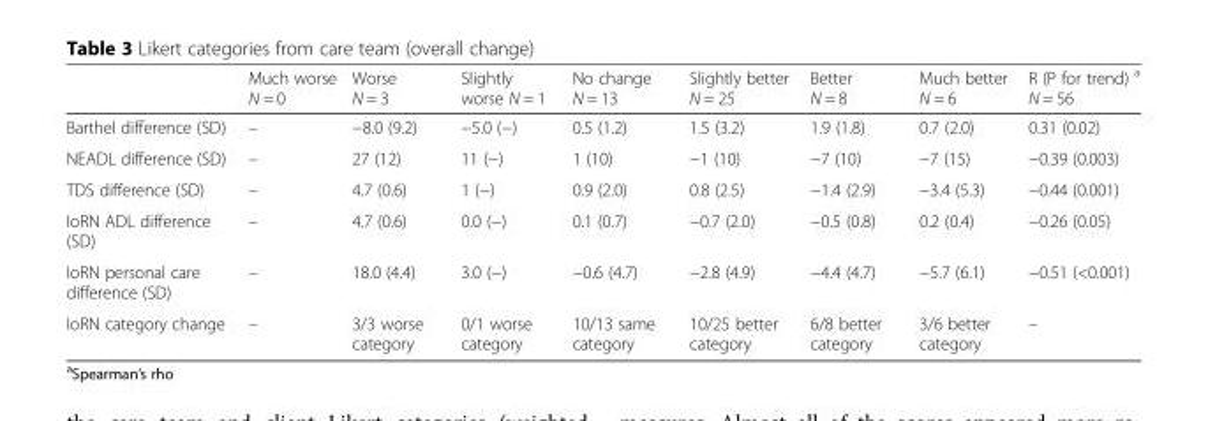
<table><thead><tr><td></td><td>Much worse N = 0</td><td>Worse N = 3</td><td>Slightly worse N = 1</td><td>No change N = 13</td><td>Slightly better N = 25</td><td>Better N = 8</td><td>Much better N = 6</td><td>R (P for trend) <sup>a</sup> N = 56</td></tr></thead><tbody><tr><td>Barthel difference (SD)</td><td>–</td><td>−8.0 (9.2)</td><td>−5.0 (−)</td><td>0.5 (1.2)</td><td>1.5 (3.2)</td><td>1.9 (1.8)</td><td>0.7 (2.0)</td><td>0.31 (0.02)</td></tr><tr><td>NEADL difference (SD)</td><td>–</td><td>27 (12)</td><td>11 (−)</td><td>1 (10)</td><td>−1 (10)</td><td>−7 (10)</td><td>−7 (15)</td><td>−0.39 (0.003)</td></tr><tr><td>TDS difference (SD)</td><td>–</td><td>4.7 (0.6)</td><td>1 (−)</td><td>0.9 (2.0)</td><td>0.8 (2.5)</td><td>−1.4 (2.9)</td><td>−3.4 (5.3)</td><td>−0.44 (0.001)</td></tr><tr><td>IoRN ADL difference (SD)</td><td>–</td><td>4.7 (0.6)</td><td>0.0 (−)</td><td>0.1 (0.7)</td><td>−0.7 (2.0)</td><td>−0.5 (0.8)</td><td>0.2 (0.4)</td><td>−0.26 (0.05)</td></tr><tr><td>IoRN personal care difference (SD)</td><td>–</td><td>18.0 (4.4)</td><td>3.0 (−)</td><td>−0.6 (4.7)</td><td>−2.8 (4.9)</td><td>−4.4 (4.7)</td><td>−5.7 (6.1)</td><td>−0.51 (&lt;0.001)</td></tr><tr><td>IoRN category change</td><td>–</td><td>3/3 worse category</td><td>0/1 worse category</td><td>10/13 same category</td><td>10/25 better category</td><td>6/8 better category</td><td>3/6 better category</td><td>–</td></tr></tbody></table>